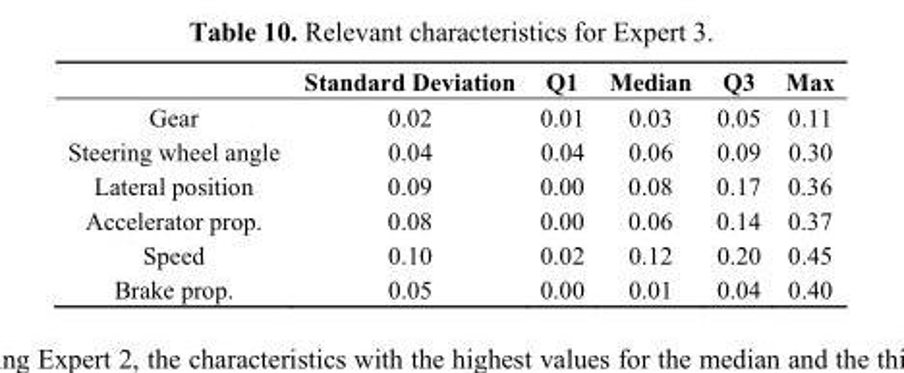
<table><thead><tr><td></td><td>Standard Deviation</td><td>Q1</td><td>Median</td><td>Q3</td><td>Max</td></tr></thead><tbody><tr><td>Gear</td><td>0.02</td><td>0.01</td><td>0.03</td><td>0.05</td><td>0.11</td></tr><tr><td>Steering wheel angle</td><td>0.04</td><td>0.04</td><td>0.06</td><td>0.09</td><td>0.30</td></tr><tr><td>Lateral position</td><td>0.09</td><td>0.00</td><td>0.08</td><td>0.17</td><td>0.36</td></tr><tr><td>Accelerator prop.</td><td>0.08</td><td>0.00</td><td>0.06</td><td>0.14</td><td>0.37</td></tr><tr><td>Speed</td><td>0.10</td><td>0.02</td><td>0.12</td><td>0.20</td><td>0.45</td></tr><tr><td>Brake prop.</td><td>0.05</td><td>0.00</td><td>0.01</td><td>0.04</td><td>0.40</td></tr></tbody></table>